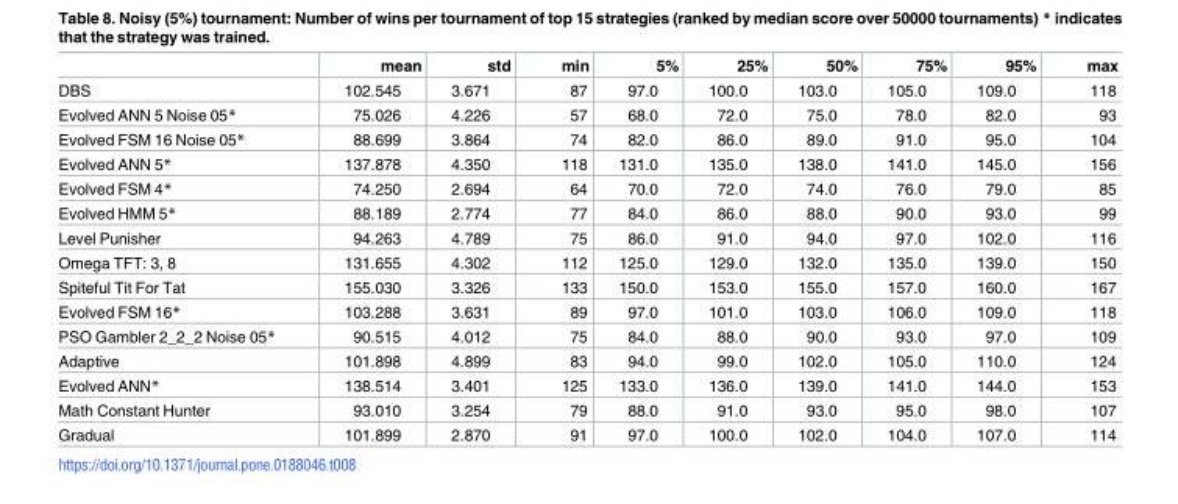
<table><thead><tr><td></td><td>mean</td><td>std</td><td>min</td><td>5%</td><td>25%</td><td>50%</td><td>75%</td><td>95%</td><td>max</td></tr></thead><tbody><tr><td>DBS</td><td>102.545</td><td>3.671</td><td>87</td><td>97.0</td><td>100.0</td><td>103.0</td><td>105.0</td><td>109.0</td><td>118</td></tr><tr><td>Evolved ANN 5 Noise 05*</td><td>75.026</td><td>4.226</td><td>57</td><td>68.0</td><td>72.0</td><td>75.0</td><td>78.0</td><td>82.0</td><td>93</td></tr><tr><td>Evolved FSM 16 Noise 05*</td><td>88.699</td><td>3.864</td><td>74</td><td>82.0</td><td>86.0</td><td>89.0</td><td>91.0</td><td>95.0</td><td>104</td></tr><tr><td>Evolved ANN 5*</td><td>137.878</td><td>4.350</td><td>118</td><td>131.0</td><td>135.0</td><td>138.0</td><td>141.0</td><td>145.0</td><td>156</td></tr><tr><td>Evolved FSM 4*</td><td>74.250</td><td>2.694</td><td>64</td><td>70.0</td><td>72.0</td><td>74.0</td><td>76.0</td><td>79.0</td><td>85</td></tr><tr><td>Evolved HMM 5*</td><td>88.189</td><td>2.774</td><td>77</td><td>84.0</td><td>86.0</td><td>88.0</td><td>90.0</td><td>93.0</td><td>99</td></tr><tr><td>Level Punisher</td><td>94.263</td><td>4.789</td><td>75</td><td>86.0</td><td>91.0</td><td>94.0</td><td>97.0</td><td>102.0</td><td>116</td></tr><tr><td>Omega TFT: 3, 8</td><td>131.655</td><td>4.302</td><td>112</td><td>125.0</td><td>129.0</td><td>132.0</td><td>135.0</td><td>139.0</td><td>150</td></tr><tr><td>Spiteful Tit For Tat</td><td>155.030</td><td>3.326</td><td>133</td><td>150.0</td><td>153.0</td><td>155.0</td><td>157.0</td><td>160.0</td><td>167</td></tr><tr><td>Evolved FSM 16*</td><td>103.288</td><td>3.631</td><td>89</td><td>97.0</td><td>101.0</td><td>103.0</td><td>106.0</td><td>109.0</td><td>118</td></tr><tr><td>PSO Gambler 2_2_2 Noise 05*</td><td>90.515</td><td>4.012</td><td>75</td><td>84.0</td><td>88.0</td><td>90.0</td><td>93.0</td><td>97.0</td><td>109</td></tr><tr><td>Adaptive</td><td>101.898</td><td>4.899</td><td>83</td><td>94.0</td><td>99.0</td><td>102.0</td><td>105.0</td><td>110.0</td><td>124</td></tr><tr><td>Evolved ANN*</td><td>138.514</td><td>3.401</td><td>125</td><td>133.0</td><td>136.0</td><td>139.0</td><td>141.0</td><td>144.0</td><td>153</td></tr><tr><td>Math Constant Hunter</td><td>93.010</td><td>3.254</td><td>79</td><td>88.0</td><td>91.0</td><td>93.0</td><td>95.0</td><td>98.0</td><td>107</td></tr><tr><td>Gradual</td><td>101.899</td><td>2.870</td><td>91</td><td>97.0</td><td>100.0</td><td>102.0</td><td>104.0</td><td>107.0</td><td>114</td></tr></tbody></table>